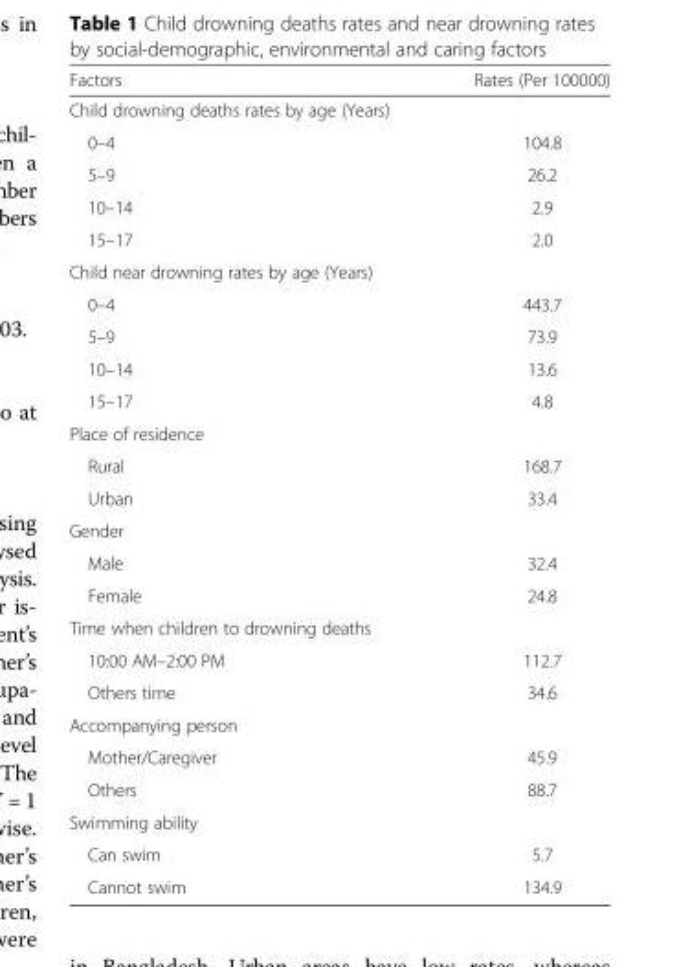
<table><thead><tr><td>Factors</td><td>Rates (Per 100000)</td></tr></thead><tbody><tr><td colspan="2">Child drowning deaths rates by age (Years)</td></tr><tr><td>0–4</td><td>104.8</td></tr><tr><td>5–9</td><td>26.2</td></tr><tr><td>10–14</td><td>2.9</td></tr><tr><td>15–17</td><td>2.0</td></tr><tr><td colspan="2">Child near drowning rates by age (Years)</td></tr><tr><td>0–4</td><td>443.7</td></tr><tr><td>5–9</td><td>73.9</td></tr><tr><td>10–14</td><td>13.6</td></tr><tr><td>15–17</td><td>4.8</td></tr><tr><td colspan="2">Place of residence</td></tr><tr><td>Rural</td><td>168.7</td></tr><tr><td>Urban</td><td>33.4</td></tr><tr><td colspan="2">Gender</td></tr><tr><td>Male</td><td>32.4</td></tr><tr><td>Female</td><td>24.8</td></tr><tr><td colspan="2">Time when children to drowning deaths</td></tr><tr><td>10:00 AM–2:00 PM</td><td>112.7</td></tr><tr><td>Others time</td><td>34.6</td></tr><tr><td colspan="2">Accompanying person</td></tr><tr><td>Mother/Caregiver</td><td>45.9</td></tr><tr><td>Others</td><td>88.7</td></tr><tr><td colspan="2">Swimming ability</td></tr><tr><td>Can swim</td><td>5.7</td></tr><tr><td>Cannot swim</td><td>134.9</td></tr></tbody></table>